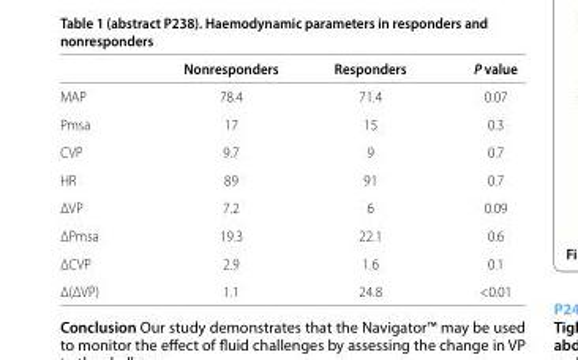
<table><thead><tr><td></td><td>Nonresponders</td><td>Responders</td><td>P value</td></tr></thead><tbody><tr><td>MAP</td><td>78.4</td><td>71.4</td><td>0.07</td></tr><tr><td>Pmsa</td><td>17</td><td>15</td><td>0.3</td></tr><tr><td>CVP</td><td>9.7</td><td>9</td><td>0.7</td></tr><tr><td>HR</td><td>89</td><td>91</td><td>0.7</td></tr><tr><td>ΔVP</td><td>7.2</td><td>6</td><td>0.09</td></tr><tr><td>ΔPmsa</td><td>19.3</td><td>22.1</td><td>0.6</td></tr><tr><td>ΔCVP</td><td>2.9</td><td>1.6</td><td>0.1</td></tr><tr><td>Δ(ΔVP)</td><td>1.1</td><td>24.8</td><td>&lt;0.01</td></tr></tbody></table>